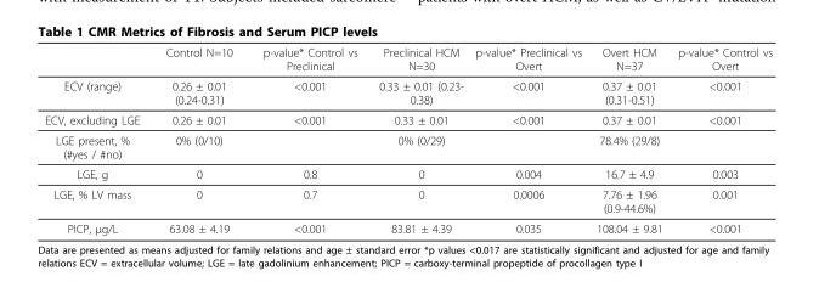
<table><thead><tr><td></td><td>Control N=10</td><td>p-value* Control vs Preclinical</td><td>Preclinical HCM N=30</td><td>p-value* Preclinical vs Overt</td><td>Overt HCM N=37</td><td>p-value* Control vs Overt</td></tr></thead><tbody><tr><td>ECV (range)</td><td>0.26 ± 0.01 (0.24-0.31)</td><td>&lt;0.001</td><td>0.33 ± 0.01 (0.23- 0.38)</td><td>&lt;0.001</td><td>0.37 ± 0.01 (0.31-0.51)</td><td>&lt;0.001</td></tr><tr><td>ECV, excluding LGE</td><td>0.26 ± 0.01</td><td>&lt;0.001</td><td>0.33 ± 0.01</td><td>&lt;0.001</td><td>0.37 ± 0.01</td><td>&lt;0.001</td></tr><tr><td>LGE present, % (#yes / #no)</td><td>0% (0/10)</td><td></td><td>0% (0/29)</td><td></td><td>78.4% (29/8)</td><td></td></tr><tr><td>LGE, g</td><td>0</td><td>0.8</td><td>0</td><td>0.004</td><td>16.7 ± 4.9</td><td>0.003</td></tr><tr><td>LGE, % LV mass</td><td>0</td><td>0.7</td><td>0</td><td>0.0006</td><td>7.76 ± 1.96 (0.9-44.6%)</td><td>0.001</td></tr><tr><td>PICP, μg/L</td><td>63.08 ± 4.19</td><td>&lt;0.001</td><td>83.81 ± 4.39</td><td>0.035</td><td>108.04 ± 9.81</td><td>&lt;0.001</td></tr></tbody></table>